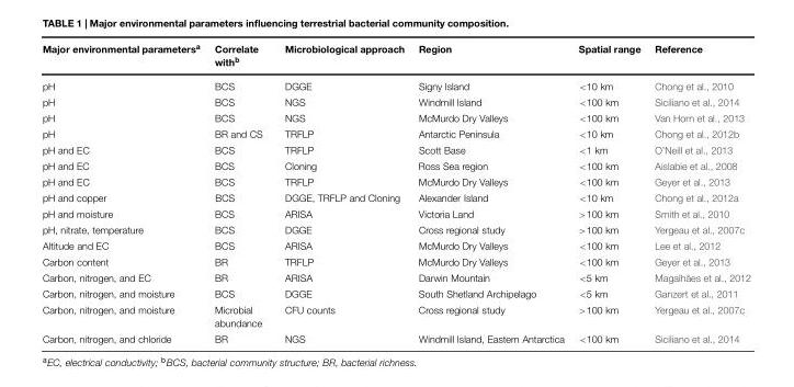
<table><thead><tr><td>Major environmental parameters<sup>a</sup></td><td>Correlate with<sup>b</sup></td><td>Microbiological approach</td><td>Region</td><td>Spatial range</td><td>Reference</td></tr></thead><tbody><tr><td>pH</td><td>BCS</td><td>DGGE</td><td>Signy Island</td><td>&lt;10 km</td><td>Chong et al., 2010</td></tr><tr><td>pH</td><td>BCS</td><td>NGS</td><td>Windmill Island</td><td>&lt;100 km</td><td>Siciliano et al., 2014</td></tr><tr><td>pH</td><td>BCS</td><td>NGS</td><td>McMurdo Dry Valleys</td><td>&lt;100 km</td><td>Van Horn et al., 2013</td></tr><tr><td>pH</td><td>BR and CS</td><td>TRFLP</td><td>Antarctic Peninsula</td><td>&lt;10 km</td><td>Chong et al., 2012b</td></tr><tr><td>pH and EC</td><td>BCS</td><td>TRFLP</td><td>Scott Base</td><td>&lt;1 km</td><td>O’Neill et al., 2013</td></tr><tr><td>pH and EC</td><td>BCS</td><td>Cloning</td><td>Ross Sea region</td><td>&lt;100 km</td><td>Aislabie et al., 2008</td></tr><tr><td>pH and EC</td><td>BCS</td><td>TRFLP</td><td>McMurdo Dry Valleys</td><td>&lt;100 km</td><td>Geyer et al., 2013</td></tr><tr><td>pH and copper</td><td>BCS</td><td>DGGE, TRFLP and Cloning</td><td>Alexander Island</td><td>&lt;10 km</td><td>Chong et al., 2012a</td></tr><tr><td>pH and moisture</td><td>BCS</td><td>ARISA</td><td>Victoria Land</td><td>&gt;100 km</td><td>Smith et al., 2010</td></tr><tr><td>pH, nitrate, temperature</td><td>BCS</td><td>DGGE</td><td>Cross regional study</td><td>&gt;100 km</td><td>Yergeau et al., 2007c</td></tr><tr><td>Altitude and EC</td><td>BCS</td><td>ARISA</td><td>McMurdo Dry Valleys</td><td>&lt;100 km</td><td>Lee et al., 2012</td></tr><tr><td>Carbon content</td><td>BR</td><td>TRFLP</td><td>McMurdo Dry Valleys</td><td>&lt;100 km</td><td>Geyer et al., 2013</td></tr><tr><td>Carbon, nitrogen, and EC</td><td>BR</td><td>ARISA</td><td>Darwin Mountain</td><td>&lt;5 km</td><td>Magalhães et al., 2012</td></tr><tr><td>Carbon, nitrogen, and moisture</td><td>BCS</td><td>DGGE</td><td>South Shetland Archipelago</td><td>&lt;5 km</td><td>Ganzert et al., 2011</td></tr><tr><td>Carbon, nitrogen, and moisture</td><td>Microbial abundance</td><td>CFU counts</td><td>Cross regional study</td><td>&gt;100 km</td><td>Yergeau et al., 2007c</td></tr><tr><td>Carbon, nitrogen, and chloride</td><td>BR</td><td>NGS</td><td>Windmill Island, Eastern Antarctica</td><td>&lt;100 km</td><td>Siciliano et al., 2014</td></tr></tbody></table>